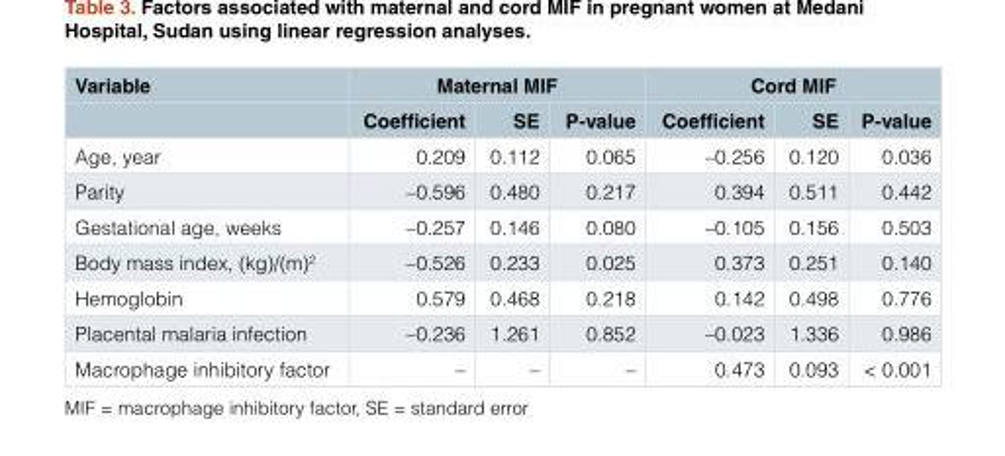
<table><thead><tr><td rowspan="2">Variable</td><td colspan="3">Maternal MIF</td><td colspan="3">Cord MIF</td></tr><tr><td>Coefficient</td><td>SE</td><td>P-value</td><td>Coefficient</td><td>SE</td><td>P-value</td></tr></thead><tbody><tr><td>Age, year</td><td>0.209</td><td>0.112</td><td>0.065</td><td>–0.256</td><td>0.120</td><td>0.036</td></tr><tr><td>Parity</td><td>–0.596</td><td>0.480</td><td>0.217</td><td>0.394</td><td>0.511</td><td>0.442</td></tr><tr><td>Gestational age, weeks</td><td>–0.257</td><td>0.146</td><td>0.080</td><td>–0.105</td><td>0.156</td><td>0.503</td></tr><tr><td>Body mass index, (kg)/(m)<sup>2</sup></td><td>–0.526</td><td>0.233</td><td>0.025</td><td>0.373</td><td>0.251</td><td>0.140</td></tr><tr><td>Hemoglobin</td><td>0.579</td><td>0.468</td><td>0.218</td><td>0.142</td><td>0.498</td><td>0.776</td></tr><tr><td>Placental malaria infection</td><td>–0.236</td><td>1.261</td><td>0.852</td><td>–0.023</td><td>1.336</td><td>0.986</td></tr><tr><td>Macrophage inhibitory factor</td><td>–</td><td>–</td><td>–</td><td>0.473</td><td>0.093</td><td>&lt; 0.001</td></tr></tbody></table>